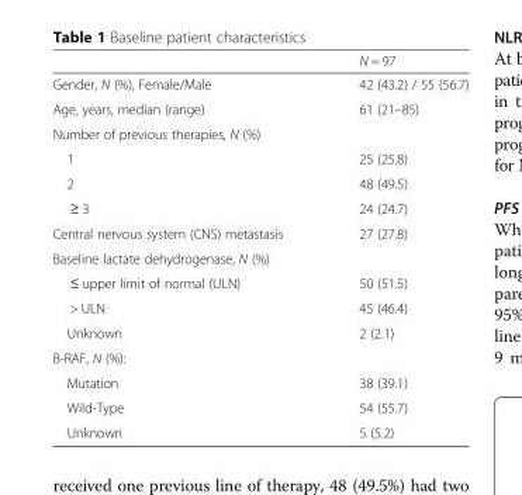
<table><thead><tr><td></td><td>N = 97</td></tr></thead><tbody><tr><td>Gender, N (%), Female/Male</td><td>42 (43.2) / 55 (56.7)</td></tr><tr><td>Age, years, median (range)</td><td>61 (21–85)</td></tr><tr><td colspan="2">Number of previous therapies, N (%)</td></tr><tr><td>1</td><td>25 (25.8)</td></tr><tr><td>2</td><td>48 (49.5)</td></tr><tr><td>≥ 3</td><td>24 (24.7)</td></tr><tr><td>Central nervous system (CNS) metastasis</td><td>27 (27.8)</td></tr><tr><td colspan="2">Baseline lactate dehydrogenase, N (%)</td></tr><tr><td>≤ upper limit of normal (ULN)</td><td>50 (51.5)</td></tr><tr><td>&gt; ULN</td><td>45 (46.4)</td></tr><tr><td>Unknown</td><td>2 (2.1)</td></tr><tr><td colspan="2">B-RAF, N (%):</td></tr><tr><td>Mutation</td><td>38 (39.1)</td></tr><tr><td>Wild-Type</td><td>54 (55.7)</td></tr><tr><td>Unknown</td><td>5 (5.2)</td></tr></tbody></table>